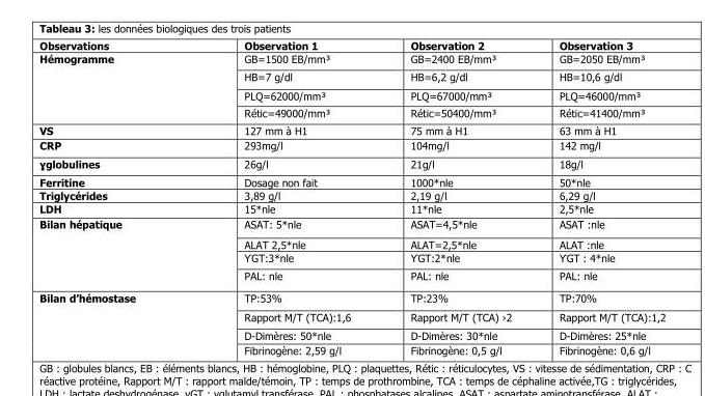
<table><thead><tr><td>Observations</td><td>Observation 1</td><td>Observation 2</td><td>Observation 3</td></tr></thead><tbody><tr><td rowspan="4">Hémogramme</td><td>GB=1500 EB/mm³</td><td>GB=2400 EB/mm³</td><td>GB=2050 EB/mm³</td></tr><tr><td>HB=7 g/dl</td><td>HB=6,2 g/dl</td><td>HB=10,6 g/dl</td></tr><tr><td>PLQ=62000/mm³</td><td>PLQ=67000/mm³</td><td>PLQ=46000/mm³</td></tr><tr><td>Rétic=49000/mm³</td><td>Rétic=50400/mm³</td><td>Rétic=41400/mm³</td></tr><tr><td>VS</td><td>127 mm à H1</td><td>75 mm à H1</td><td>63 mm à H1</td></tr><tr><td>CRP</td><td>293mg/l</td><td>104mg/l</td><td>142 mg/l</td></tr><tr><td>ɣglobulines</td><td>26g/l</td><td>21g/l</td><td>18g/l</td></tr><tr><td>Ferritine</td><td>Dosage non fait</td><td>1000*nle</td><td>50*nle</td></tr><tr><td>Triglycérides</td><td>3,89 g/l</td><td>2,19 g/l</td><td>6,29 g/l</td></tr><tr><td>LDH</td><td>15*nle</td><td>11*nle</td><td>2,5*nle</td></tr><tr><td rowspan="4">Bilan hépatique</td><td>ASAT: 5*nle</td><td>ASAT=4,5*nle</td><td>ASAT :nle</td></tr><tr><td>ALAT 2,5*nle</td><td>ALAT=2,5*nle</td><td>ALAT :nle</td></tr><tr><td>ϒGT:3*nle</td><td>ϒGT:2*nle</td><td>ϒGT : 4*nle</td></tr><tr><td>PAL: nle</td><td>PAL: nle</td><td>PAL: nle</td></tr><tr><td rowspan="4">Bilan d’hémostase</td><td>TP:53%</td><td>TP:23%</td><td>TP:70%</td></tr><tr><td>Rapport M/T (TCA):1,6</td><td>Rapport M/T (TCA) ›2</td><td>Rapport M/T (TCA):1,2</td></tr><tr><td>D-Dimères: 50*nle</td><td>D-Dimères: 30*nle</td><td>D-Dimères: 25*nle</td></tr><tr><td>Fibrinogène: 2,59 g/l</td><td>Fibrinogène: 0,5 g/l</td><td>Fibrinogène: 0,6 g/l</td></tr></tbody></table>